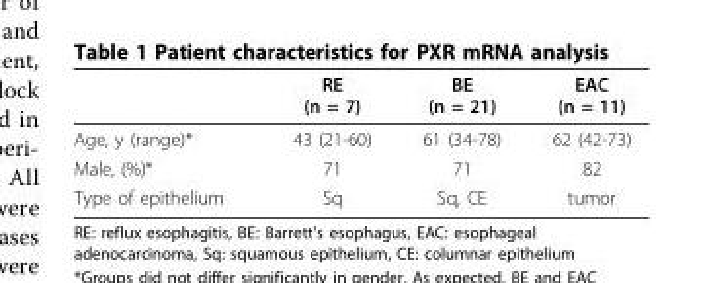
<table><thead><tr><td></td><td>RE (n = 7)</td><td>BE (n = 21)</td><td>EAC (n = 11)</td></tr></thead><tbody><tr><td>Age, y (range)*</td><td>43 (21-60)</td><td>61 (34-78)</td><td>62 (42-73)</td></tr><tr><td>Male, (%)*</td><td>71</td><td>71</td><td>82</td></tr><tr><td>Type of epithelium</td><td>Sq</td><td>Sq, CE</td><td>tumor</td></tr></tbody></table>